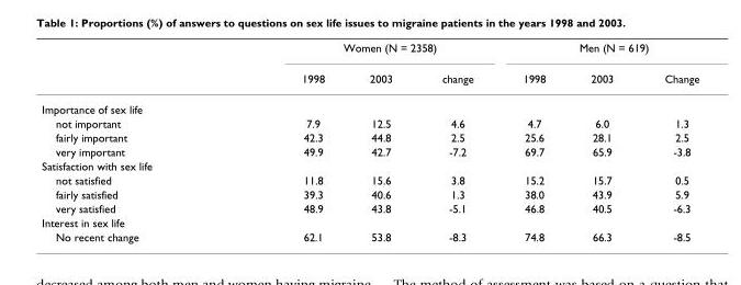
<table><thead><tr><td rowspan="2"></td><td colspan="3">Women (N = 2358)</td><td colspan="3">Men (N = 619)</td></tr><tr><td>1998</td><td>2003</td><td>change</td><td>1998</td><td>2003</td><td>Change</td></tr></thead><tbody><tr><td colspan="7">Importance of sex life</td></tr><tr><td>not important</td><td>7.9</td><td>12.5</td><td>4.6</td><td>4.7</td><td>6.0</td><td>1.3</td></tr><tr><td>fairly important</td><td>42.3</td><td>44.8</td><td>2.5</td><td>25.6</td><td>28.1</td><td>2.5</td></tr><tr><td>very important</td><td>49.9</td><td>42.7</td><td>-7.2</td><td>69.7</td><td>65.9</td><td>-3.8</td></tr><tr><td colspan="7">Satisfaction with sex life</td></tr><tr><td>not satisfied</td><td>11.8</td><td>15.6</td><td>3.8</td><td>15.2</td><td>15.7</td><td>0.5</td></tr><tr><td>fairly satisfied</td><td>39.3</td><td>40.6</td><td>1.3</td><td>38.0</td><td>43.9</td><td>5.9</td></tr><tr><td>very satisfied</td><td>48.9</td><td>43.8</td><td>-5.1</td><td>46.8</td><td>40.5</td><td>-6.3</td></tr><tr><td colspan="7">Interest in sex life</td></tr><tr><td>No recent change</td><td>62.1</td><td>53.8</td><td>-8.3</td><td>74.8</td><td>66.3</td><td>-8.5</td></tr></tbody></table>